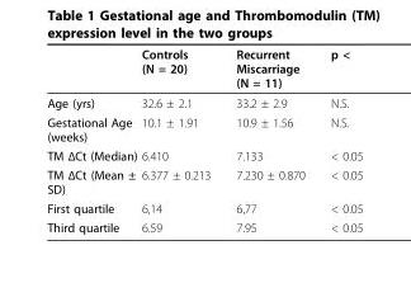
<table><thead><tr><td></td><td>Controls (N = 20)</td><td>Recurrent Miscarriage (N = 11)</td><td>p &lt;</td></tr></thead><tbody><tr><td>Age (yrs)</td><td>32.6 ± 2.1</td><td>33.2 ± 2.9</td><td>N.S.</td></tr><tr><td>Gestational Age (weeks)</td><td>10.1 ± 1.91</td><td>10.9 ± 1.56</td><td>N.S.</td></tr><tr><td>TM ΔCt (Median)</td><td>6.410</td><td>7.133</td><td>&lt; 0.05</td></tr><tr><td>TM ΔCt (Mean ± SD)</td><td>6.377 ± 0.213</td><td>7.230 ± 0.870</td><td>&lt; 0.05</td></tr><tr><td>First quartile</td><td>6,14</td><td>6,77</td><td>&lt; 0.05</td></tr><tr><td>Third quartile</td><td>6.59</td><td>7.95</td><td>&lt; 0.05</td></tr></tbody></table>